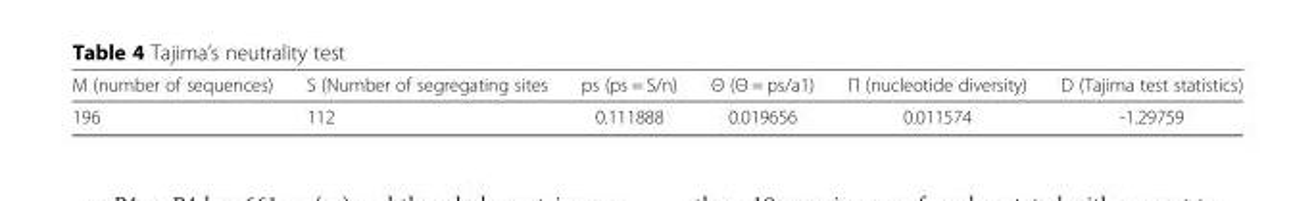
<table><thead><tr><td>M (number of sequences)</td><td>S (Number of segregating sites</td><td>ps (ps = S/n)</td><td>Θ (Θ = ps/a1)</td><td>Π (nucleotide diversity)</td><td>D (Tajima test statistics)</td></tr></thead><tbody><tr><td>196</td><td>112</td><td>0.111888</td><td>0.019656</td><td>0.011574</td><td>-1.29759</td></tr></tbody></table>